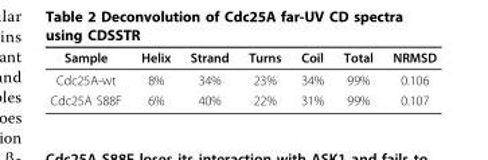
<table><thead><tr><td>Sample</td><td>Helix</td><td>Strand</td><td>Turns</td><td>Coil</td><td>Total</td><td>NRMSD</td></tr></thead><tbody><tr><td>Cdc25A-wt</td><td>8%</td><td>34%</td><td>23%</td><td>34%</td><td>99%</td><td>0.106</td></tr><tr><td>Cdc25A S88F</td><td>6%</td><td>40%</td><td>22%</td><td>31%</td><td>99%</td><td>0.107</td></tr></tbody></table>